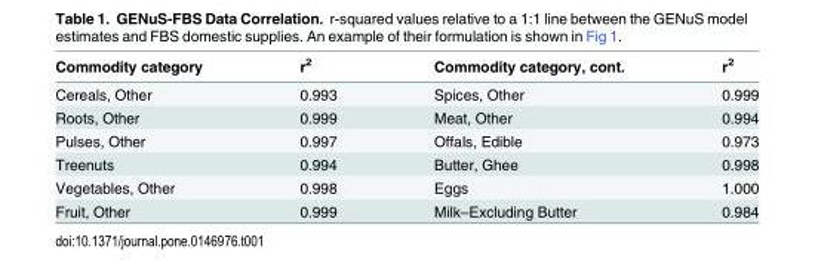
<table><thead><tr><td>Commodity category</td><td>r<sup>2</sup></td><td>Commodity category, cont.</td><td>r<sup>2</sup></td></tr></thead><tbody><tr><td>Cereals, Other</td><td>0.993</td><td>Spices, Other</td><td>0.999</td></tr><tr><td>Roots, Other</td><td>0.999</td><td>Meat, Other</td><td>0.994</td></tr><tr><td>Pulses, Other</td><td>0.997</td><td>Offals, Edible</td><td>0.973</td></tr><tr><td>Treenuts</td><td>0.994</td><td>Butter, Ghee</td><td>0.998</td></tr><tr><td>Vegetables, Other</td><td>0.998</td><td>Eggs</td><td>1.000</td></tr><tr><td>Fruit, Other</td><td>0.999</td><td>Milk–Excluding Butter</td><td>0.984</td></tr></tbody></table>